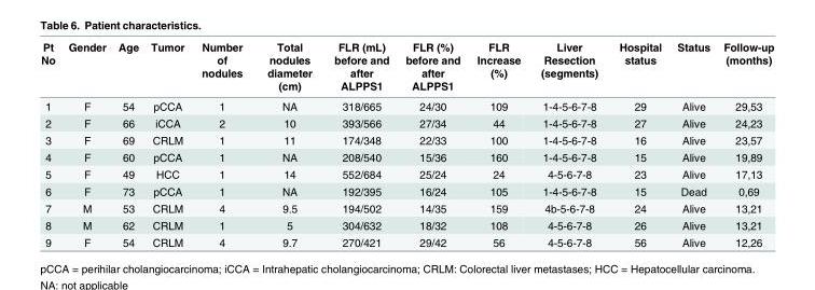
<table><thead><tr><td>Pt No</td><td>Gender</td><td>Age</td><td>Tumor</td><td>Number of nodules</td><td>Total nodules diameter (cm)</td><td>FLR (mL) before and after ALPPS1</td><td>FLR (%) before and after ALPPS1</td><td>FLR Increase (%)</td><td>Liver Resection (segments)</td><td>Hospital status</td><td>Status</td><td>Follow-up (months)</td></tr></thead><tbody><tr><td>1</td><td>F</td><td>54</td><td>pCCA</td><td>1</td><td>NA</td><td>318/665</td><td>24/30</td><td>109</td><td>1-4-5-6-7-8</td><td>29</td><td>Alive</td><td>29,53</td></tr><tr><td>2</td><td>F</td><td>66</td><td>iCCA</td><td>2</td><td>10</td><td>393/566</td><td>27/34</td><td>44</td><td>1-4-5-6-7-8</td><td>27</td><td>Alive</td><td>24,23</td></tr><tr><td>3</td><td>F</td><td>69</td><td>CRLM</td><td>1</td><td>11</td><td>174/348</td><td>22/33</td><td>100</td><td>1-4-5-6-7-8</td><td>16</td><td>Alive</td><td>23,57</td></tr><tr><td>4</td><td>F</td><td>60</td><td>pCCA</td><td>1</td><td>NA</td><td>208/540</td><td>15/36</td><td>160</td><td>1-4-5-6-7-8</td><td>15</td><td>Alive</td><td>19,89</td></tr><tr><td>5</td><td>F</td><td>49</td><td>HCC</td><td>1</td><td>14</td><td>552/684</td><td>25/24</td><td>24</td><td>4-5-6-7-8</td><td>23</td><td>Alive</td><td>17,13</td></tr><tr><td>6</td><td>F</td><td>73</td><td>pCCA</td><td>1</td><td>NA</td><td>192/395</td><td>16/24</td><td>105</td><td>1-4-5-6-7-8</td><td>15</td><td>Dead</td><td>0,69</td></tr><tr><td>7</td><td>M</td><td>53</td><td>CRLM</td><td>4</td><td>9.5</td><td>194/502</td><td>14/35</td><td>159</td><td>4b-5-6-7-8</td><td>24</td><td>Alive</td><td>13,21</td></tr><tr><td>8</td><td>M</td><td>62</td><td>CRLM</td><td>1</td><td>5</td><td>304/632</td><td>18/32</td><td>108</td><td>4-5-6-7-8</td><td>26</td><td>Alive</td><td>13,21</td></tr><tr><td>9</td><td>F</td><td>54</td><td>CRLM</td><td>4</td><td>9.7</td><td>270/421</td><td>29/42</td><td>56</td><td>4-5-6-7-8</td><td>56</td><td>Alive</td><td>12,26</td></tr></tbody></table>